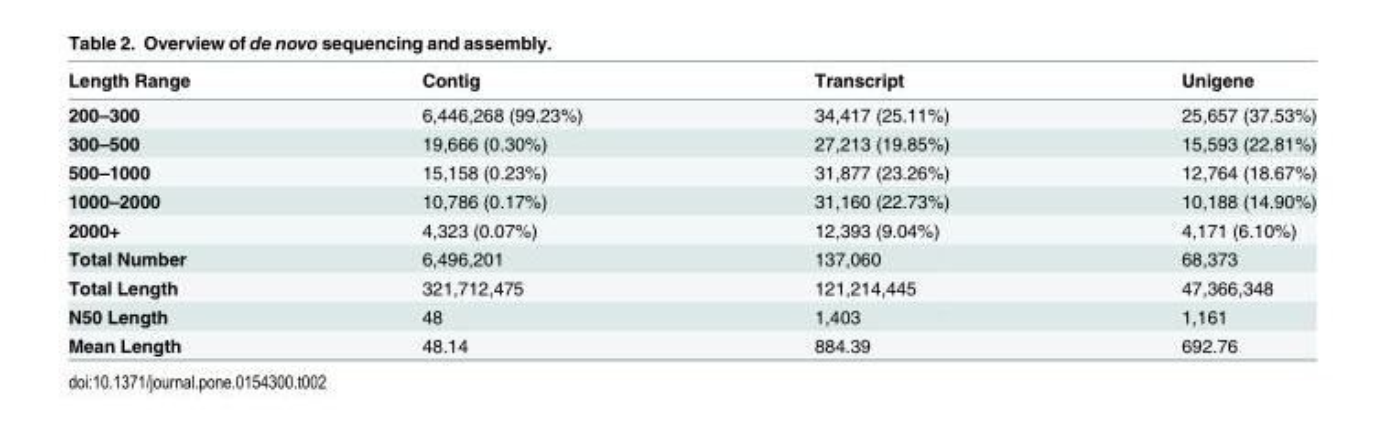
<table><thead><tr><td>Length Range</td><td>Contig</td><td>Transcript</td><td>Unigene</td></tr></thead><tbody><tr><td>200–300</td><td>6,446,268 (99.23%)</td><td>34,417 (25.11%)</td><td>25,657 (37.53%)</td></tr><tr><td>300–500</td><td>19,666 (0.30%)</td><td>27,213 (19.85%)</td><td>15,593 (22.81%)</td></tr><tr><td>500–1000</td><td>15,158 (0.23%)</td><td>31,877 (23.26%)</td><td>12,764 (18.67%)</td></tr><tr><td>1000–2000</td><td>10,786 (0.17%)</td><td>31,160 (22.73%)</td><td>10,188 (14.90%)</td></tr><tr><td>2000+</td><td>4,323 (0.07%)</td><td>12,393 (9.04%)</td><td>4,171 (6.10%)</td></tr><tr><td>Total Number</td><td>6,496,201</td><td>137,060</td><td>68,373</td></tr><tr><td>Total Length</td><td>321,712,475</td><td>121,214,445</td><td>47,366,348</td></tr><tr><td>N50 Length</td><td>48</td><td>1,403</td><td>1,161</td></tr><tr><td>Mean Length</td><td>48.14</td><td>884.39</td><td>692.76</td></tr></tbody></table>